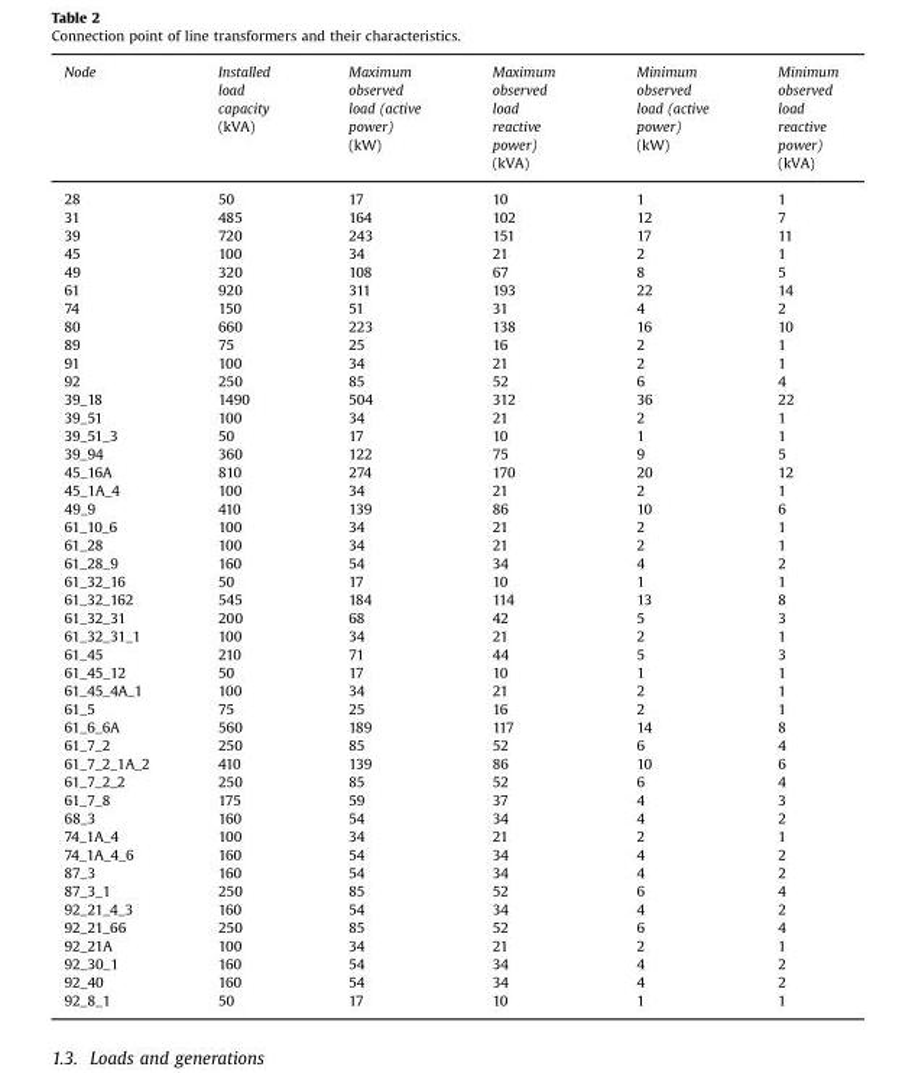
<table><thead><tr><td>Node</td><td>Installed load capacity (kVA)</td><td>Maximum observed load (active power) (kW)</td><td>Maximum observed load reactive power) (kVA)</td><td>Minimum observed load (active power) (kW)</td><td>Minimum observed load reactive power) (kVA)</td></tr></thead><tbody><tr><td>28</td><td>50</td><td>17</td><td>10</td><td>1</td><td>1</td></tr><tr><td>31</td><td>485</td><td>164</td><td>102</td><td>12</td><td>7</td></tr><tr><td>39</td><td>720</td><td>243</td><td>151</td><td>17</td><td>11</td></tr><tr><td>45</td><td>100</td><td>34</td><td>21</td><td>2</td><td>1</td></tr><tr><td>49</td><td>320</td><td>108</td><td>67</td><td>8</td><td>5</td></tr><tr><td>61</td><td>920</td><td>311</td><td>193</td><td>22</td><td>14</td></tr><tr><td>74</td><td>150</td><td>51</td><td>31</td><td>4</td><td>2</td></tr><tr><td>80</td><td>660</td><td>223</td><td>138</td><td>16</td><td>10</td></tr><tr><td>89</td><td>75</td><td>25</td><td>16</td><td>2</td><td>1</td></tr><tr><td>91</td><td>100</td><td>34</td><td>21</td><td>2</td><td>1</td></tr><tr><td>92</td><td>250</td><td>85</td><td>52</td><td>6</td><td>4</td></tr><tr><td>39_18</td><td>1490</td><td>504</td><td>312</td><td>36</td><td>22</td></tr><tr><td>39_51</td><td>100</td><td>34</td><td>21</td><td>2</td><td>1</td></tr><tr><td>39_51_3</td><td>50</td><td>17</td><td>10</td><td>1</td><td>1</td></tr><tr><td>39_94</td><td>360</td><td>122</td><td>75</td><td>9</td><td>5</td></tr><tr><td>45_16A</td><td>810</td><td>274</td><td>170</td><td>20</td><td>12</td></tr><tr><td>45_1A_4</td><td>100</td><td>34</td><td>21</td><td>2</td><td>1</td></tr><tr><td>49_9</td><td>410</td><td>139</td><td>86</td><td>10</td><td>6</td></tr><tr><td>61_10_6</td><td>100</td><td>34</td><td>21</td><td>2</td><td>1</td></tr><tr><td>61_28</td><td>100</td><td>34</td><td>21</td><td>2</td><td>1</td></tr><tr><td>61_28_9</td><td>160</td><td>54</td><td>34</td><td>4</td><td>2</td></tr><tr><td>61_32_16</td><td>50</td><td>17</td><td>10</td><td>1</td><td>1</td></tr><tr><td>61_32_162</td><td>545</td><td>184</td><td>114</td><td>13</td><td>8</td></tr><tr><td>61_32_31</td><td>200</td><td>68</td><td>42</td><td>5</td><td>3</td></tr><tr><td>61_32_31_1</td><td>100</td><td>34</td><td>21</td><td>2</td><td>1</td></tr><tr><td>61_45</td><td>210</td><td>71</td><td>44</td><td>5</td><td>3</td></tr><tr><td>61_45_12</td><td>50</td><td>17</td><td>10</td><td>1</td><td>1</td></tr><tr><td>61_45_4A_1</td><td>100</td><td>34</td><td>21</td><td>2</td><td>1</td></tr><tr><td>61_5</td><td>75</td><td>25</td><td>16</td><td>2</td><td>1</td></tr><tr><td>61_6_6A</td><td>560</td><td>189</td><td>117</td><td>14</td><td>8</td></tr><tr><td>61_7_2</td><td>250</td><td>85</td><td>52</td><td>6</td><td>4</td></tr><tr><td>61_7_2_1A_2</td><td>410</td><td>139</td><td>86</td><td>10</td><td>6</td></tr><tr><td>61_7_2_2</td><td>250</td><td>85</td><td>52</td><td>6</td><td>4</td></tr><tr><td>61_7_8</td><td>175</td><td>59</td><td>37</td><td>4</td><td>3</td></tr><tr><td>68_3</td><td>160</td><td>54</td><td>34</td><td>4</td><td>2</td></tr><tr><td>74_1A_4</td><td>100</td><td>34</td><td>21</td><td>2</td><td>1</td></tr><tr><td>74_1A_4_6</td><td>160</td><td>54</td><td>34</td><td>4</td><td>2</td></tr><tr><td>87_3</td><td>160</td><td>54</td><td>34</td><td>4</td><td>2</td></tr><tr><td>87_3_1</td><td>250</td><td>85</td><td>52</td><td>6</td><td>4</td></tr><tr><td>92_21_4_3</td><td>160</td><td>54</td><td>34</td><td>4</td><td>2</td></tr><tr><td>92_21_66</td><td>250</td><td>85</td><td>52</td><td>6</td><td>4</td></tr><tr><td>92_21A</td><td>100</td><td>34</td><td>21</td><td>2</td><td>1</td></tr><tr><td>92_30_1</td><td>160</td><td>54</td><td>34</td><td>4</td><td>2</td></tr><tr><td>92_40</td><td>160</td><td>54</td><td>34</td><td>4</td><td>2</td></tr><tr><td>92_8_1</td><td>50</td><td>17</td><td>10</td><td>1</td><td>1</td></tr></tbody></table>